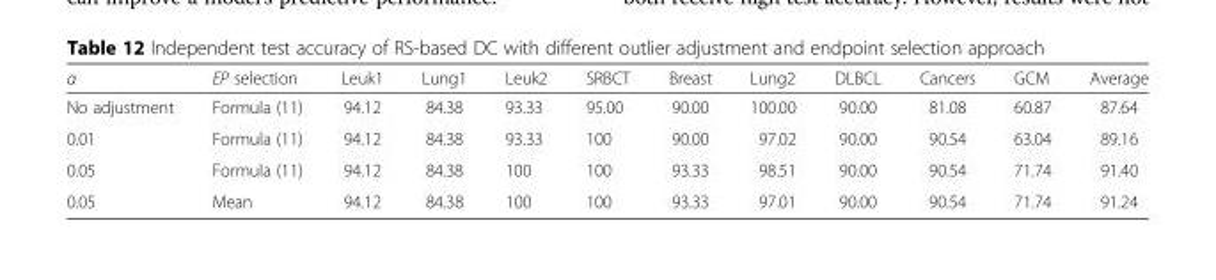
<table><thead><tr><td>α</td><td>EP selection</td><td>Leuk1</td><td>Lung1</td><td>Leuk2</td><td>SRBCT</td><td>Breast</td><td>Lung2</td><td>DLBCL</td><td>Cancers</td><td>GCM</td><td>Average</td></tr></thead><tbody><tr><td>No adjustment</td><td>Formula (11)</td><td>94.12</td><td>84.38</td><td>93.33</td><td>95.00</td><td>90.00</td><td>100.00</td><td>90.00</td><td>81.08</td><td>60.87</td><td>87.64</td></tr><tr><td>0.01</td><td>Formula (11)</td><td>94.12</td><td>84.38</td><td>93.33</td><td>100</td><td>90.00</td><td>97.02</td><td>90.00</td><td>90.54</td><td>63.04</td><td>89.16</td></tr><tr><td>0.05</td><td>Formula (11)</td><td>94.12</td><td>84.38</td><td>100</td><td>100</td><td>93.33</td><td>98.51</td><td>90.00</td><td>90.54</td><td>71.74</td><td>91.40</td></tr><tr><td>0.05</td><td>Mean</td><td>94.12</td><td>84.38</td><td>100</td><td>100</td><td>93.33</td><td>97.01</td><td>90.00</td><td>90.54</td><td>71.74</td><td>91.24</td></tr></tbody></table>